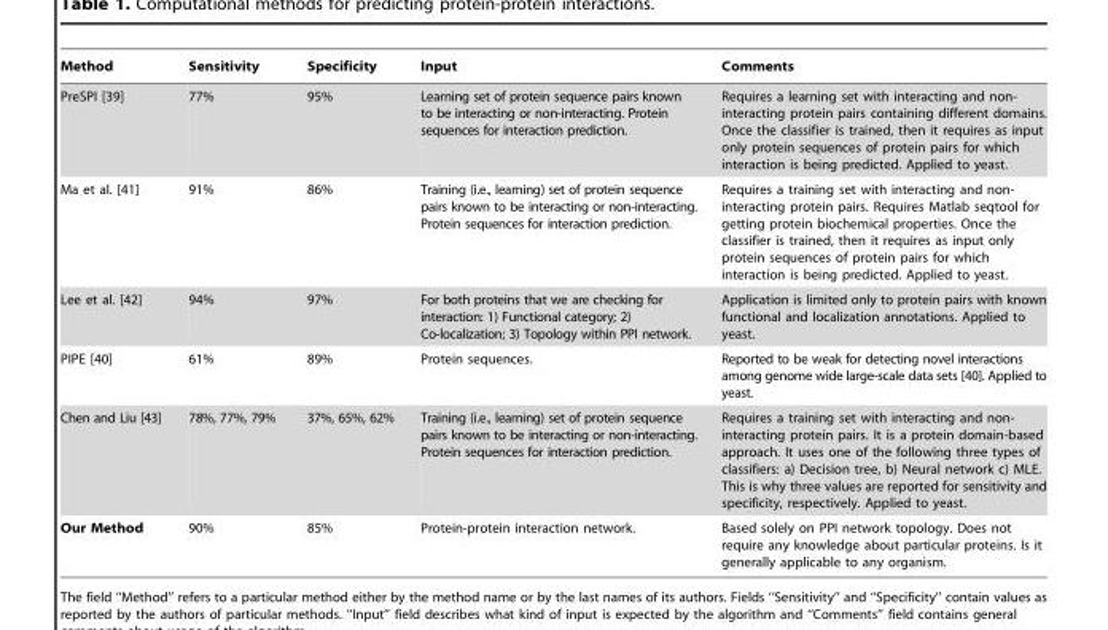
<table><thead><tr><td>Method</td><td>Sensitivity</td><td>Specificity</td><td>Input</td><td>Comments</td></tr></thead><tbody><tr><td>PreSPI [39]</td><td>77%</td><td>95%</td><td>Learning set of protein sequence pairs known to be interacting or non-interacting. Protein sequences for interaction prediction.</td><td>Requires a learning set with interacting and non- interacting protein pairs containing different domains. Once the classifier is trained, then it requires as input only protein sequences of protein pairs for which interaction is being predicted. Applied to yeast.</td></tr><tr><td>Ma et al. [41]</td><td>91%</td><td>86%</td><td>Training (i.e., learning) set of protein sequence pairs known to be interacting or non-interacting. Protein sequences for interaction prediction.</td><td>Requires a training set with interacting and non- interacting protein pairs. Requires Matlab seqtool for getting protein biochemical properties. Once the classifier is trained, then it requires as input only protein sequences of protein pairs for which interaction is being predicted. Applied to yeast.</td></tr><tr><td>Lee et al. [42]</td><td>94%</td><td>97%</td><td>For both proteins that we are checking for interaction: 1) Functional category; 2) Co-localization; 3) Topology within PPI network.</td><td>Application is limited only to protein pairs with known functional and localization annotations. Applied to yeast.</td></tr><tr><td>PIPE [40]</td><td>61%</td><td>89%</td><td>Protein sequences.</td><td>Reported to be weak for detecting novel interactions among genome wide large-scale data sets [40]. Applied to yeast.</td></tr><tr><td>Chen and Liu [43]</td><td>78%, 77%, 79%</td><td>37%, 65%, 62%</td><td>Training (i.e., learning) set of protein sequence pairs known to be interacting or non-interacting. Protein sequences for interaction prediction.</td><td>Requires a training set with interacting and non- interacting protein pairs. It is a protein domain-based approach. It uses one of the following three types of classifiers: a) Decision tree, b) Neural network c) MLE. This is why three values are reported for sensitivity and specificity, respectively. Applied to yeast.</td></tr><tr><td>Our Method</td><td>90%</td><td>85%</td><td>Protein-protein interaction network.</td><td>Based solely on PPI network topology. Does not require any knowledge about particular proteins. Is it generally applicable to any organism.</td></tr></tbody></table>